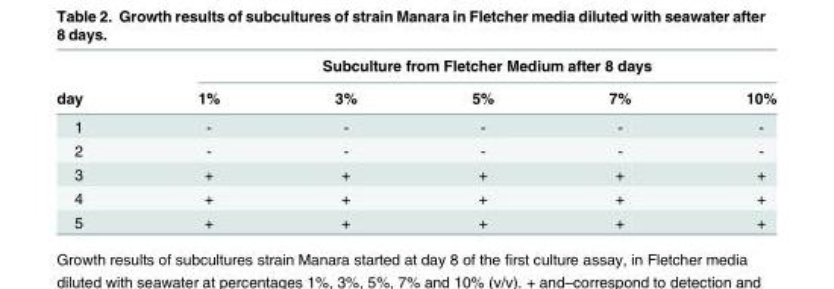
<table><thead><tr><td rowspan="2">day</td><td colspan="5">Subculture from Fletcher Medium after 8 days</td></tr><tr><td>1%</td><td>3%</td><td>5%</td><td>7%</td><td>10%</td></tr></thead><tbody><tr><td>1</td><td>-</td><td>-</td><td>-</td><td>-</td><td>-</td></tr><tr><td>2</td><td>-</td><td>-</td><td>-</td><td>-</td><td>-</td></tr><tr><td>3</td><td>+</td><td>+</td><td>+</td><td>+</td><td>+</td></tr><tr><td>4</td><td>+</td><td>+</td><td>+</td><td>+</td><td>+</td></tr><tr><td>5</td><td>+</td><td>+</td><td>+</td><td>+</td><td>+</td></tr></tbody></table>